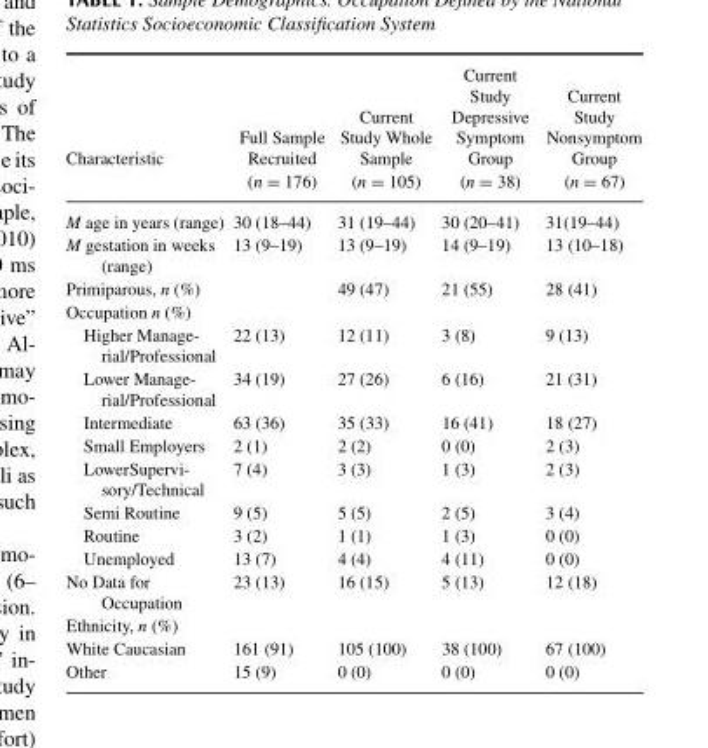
<table><thead><tr><td rowspan="2">Characteristic</td><td rowspan="2">Full Sample Recruited (n = 176)</td><td rowspan="2">Current Study Whole Sample (n = 105)</td><td rowspan="2">Current Study Depressive Symptom Group (n = 38)</td><td rowspan="2">Current Study Nonsymptom Group (n = 67)</td></tr><tr></tr></thead><tbody><tr><td>M age in years (range)</td><td>30 (18–44)</td><td>31 (19–44)</td><td>30 (20–41)</td><td>31(19–44)</td></tr><tr><td>M gestation in weeks (range)</td><td>13 (9–19)</td><td>13 (9–19)</td><td>14 (9–19)</td><td>13 (10–18)</td></tr><tr><td>Primiparous, n (%)</td><td></td><td>49 (47)</td><td>21 (55)</td><td>28 (41)</td></tr><tr><td colspan="5">Occupation n (%)</td></tr><tr><td>Higher Manage- rial/Professional</td><td>22 (13)</td><td>12 (11)</td><td>3 (8)</td><td>9 (13)</td></tr><tr><td>Lower Manage- rial/Professional</td><td>34 (19)</td><td>27 (26)</td><td>6 (16)</td><td>21 (31)</td></tr><tr><td>Intermediate</td><td>63 (36)</td><td>35 (33)</td><td>16 (41)</td><td>18 (27)</td></tr><tr><td>Small Employers</td><td>2 (1)</td><td>2 (2)</td><td>0 (0)</td><td>2 (3)</td></tr><tr><td>LowerSupervi- sory/Technical</td><td>7 (4)</td><td>3 (3)</td><td>1 (3)</td><td>2 (3)</td></tr><tr><td>Semi Routine</td><td>9 (5)</td><td>5 (5)</td><td>2 (5)</td><td>3 (4)</td></tr><tr><td>Routine</td><td>3 (2)</td><td>1 (1)</td><td>1 (3)</td><td>0 (0)</td></tr><tr><td>Unemployed</td><td>13 (7)</td><td>4 (4)</td><td>4 (11)</td><td>0 (0)</td></tr><tr><td>No Data for Occupation</td><td>23 (13)</td><td>16 (15)</td><td>5 (13)</td><td>12 (18)</td></tr><tr><td colspan="5">Ethnicity, n (%)</td></tr><tr><td>White Caucasian</td><td>161 (91)</td><td>105 (100)</td><td>38 (100)</td><td>67 (100)</td></tr><tr><td>Other</td><td>15 (9)</td><td>0 (0)</td><td>0 (0)</td><td>0 (0)</td></tr></tbody></table>